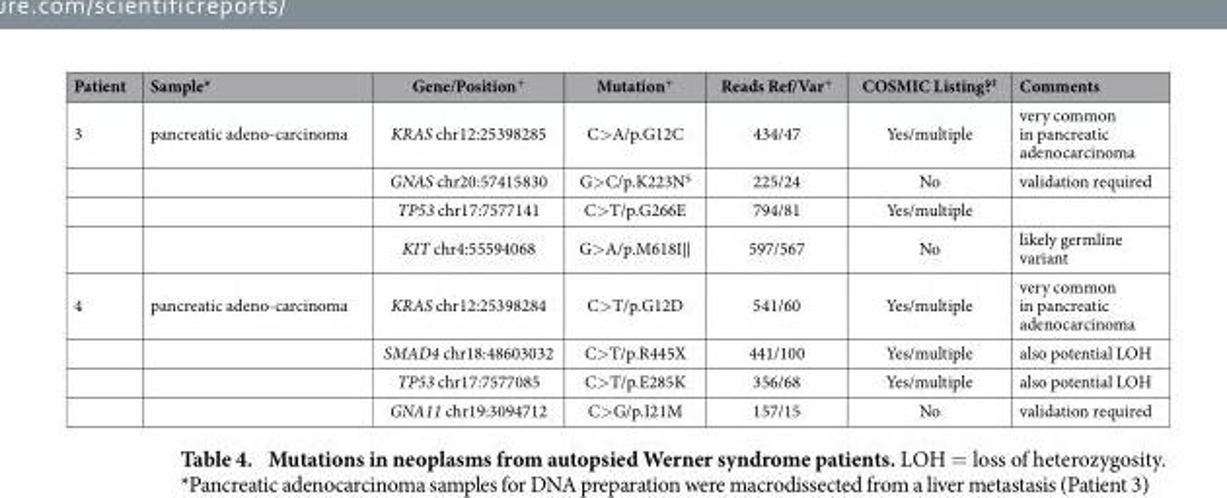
<table><thead><tr><td>Patient</td><td>Sample*</td><td>Gene/Position+</td><td>Mutation+</td><td>Reads Ref/Var+</td><td>COSMIC Listing?‡</td><td>Comments</td></tr></thead><tbody><tr><td rowspan="4">3</td><td>pancreatic adeno-carcinoma</td><td>KRAS chr12:25398285</td><td>C&gt; A/p.G12C</td><td>434/47</td><td>Yes/multiple</td><td>very common in pancreatic adenocarcinoma</td></tr><tr><td></td><td>GNAS chr20:57415830</td><td>G&gt; C/p.K223N§</td><td>225/24</td><td>No</td><td>validation required</td></tr><tr><td></td><td>TP53 chr17:7577141</td><td>C&gt; T/p.G266E</td><td>794/81</td><td>Yes/multiple</td><td></td></tr><tr><td></td><td>KIT chr4:55594068</td><td>G&gt; A/p.M618I‖</td><td>597/567</td><td>No</td><td>likely germline variant</td></tr><tr><td rowspan="4">4</td><td>pancreatic adeno-carcinoma</td><td>KRAS chr12:25398284</td><td>C&gt; T/p.G12D</td><td>541/60</td><td>Yes/multiple</td><td>very common in pancreatic adenocarcinoma</td></tr><tr><td></td><td>SMAD4 chr18:48603032</td><td>C&gt; T/p.R445X</td><td>441/100</td><td>Yes/multiple</td><td>also potential LOH</td></tr><tr><td></td><td>TP53 chr17:7577085</td><td>C&gt; T/p.E285K</td><td>356/68</td><td>Yes/multiple</td><td>also potential LOH</td></tr><tr><td></td><td>GNA11 chr19:3094712</td><td>C&gt; G/p.I21M</td><td>157/15</td><td>No</td><td>validation required</td></tr></tbody></table>